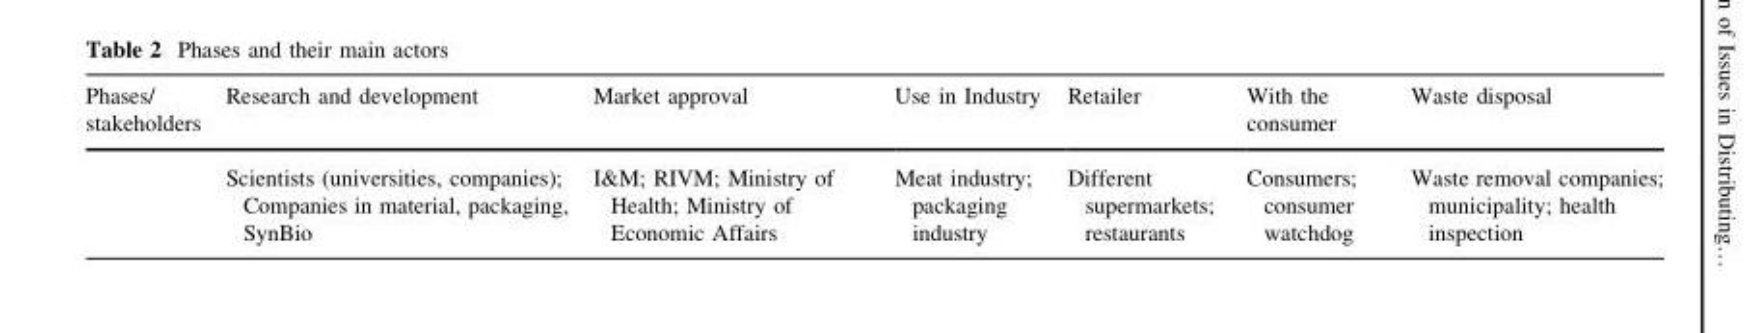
<table><thead><tr><td>Phases/ stakeholders</td><td>Research and development</td><td>Market approval</td><td>Use in Industry</td><td>Retailer</td><td>With the consumer</td><td>Waste disposal</td></tr></thead><tbody><tr><td></td><td>Scientists (universities, companies); Companies in material, packaging, SynBio</td><td>I&amp;M; RIVM; Ministry of Health; Ministry of Economic Affairs</td><td>Meat industry; packaging industry</td><td>Different supermarkets; restaurants</td><td>Consumers; consumer watchdog</td><td>Waste removal companies; municipality; health inspection</td></tr></tbody></table>